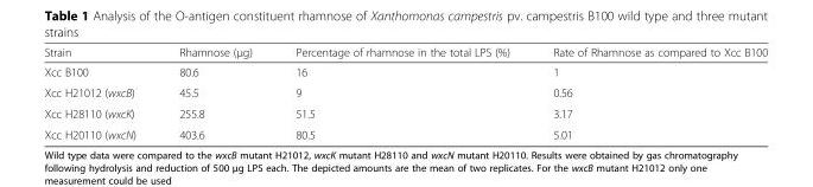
<table><thead><tr><td>Strain</td><td>Rhamnose (μg)</td><td>Percentage of rhamnose in the total LPS (%)</td><td>Rate of Rhamnose as compared to Xcc B100</td></tr></thead><tbody><tr><td>Xcc B100</td><td>80.6</td><td>16</td><td>1</td></tr><tr><td>Xcc H21012 (wxcB)</td><td>45.5</td><td>9</td><td>0.56</td></tr><tr><td>Xcc H28110 (wxcK)</td><td>255.8</td><td>51.5</td><td>3.17</td></tr><tr><td>Xcc H20110 (wxcN)</td><td>403.6</td><td>80.5</td><td>5.01</td></tr></tbody></table>